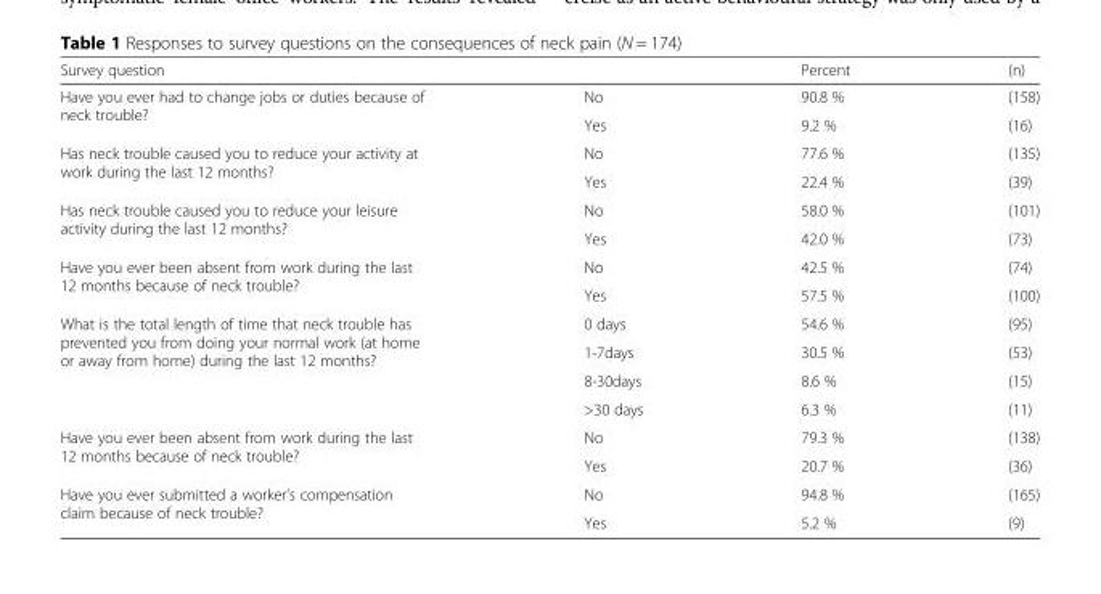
<table><thead><tr><td>Survey question</td><td></td><td>Percent</td><td>(n)</td></tr></thead><tbody><tr><td rowspan="2">Have you ever had to change jobs or duties because of neck trouble?</td><td>No</td><td>90.8 %</td><td>(158)</td></tr><tr><td>Yes</td><td>9.2 %</td><td>(16)</td></tr><tr><td rowspan="2">Has neck trouble caused you to reduce your activity at work during the last 12 months?</td><td>No</td><td>77.6 %</td><td>(135)</td></tr><tr><td>Yes</td><td>22.4 %</td><td>(39)</td></tr><tr><td rowspan="2">Has neck trouble caused you to reduce your leisure activity during the last 12 months?</td><td>No</td><td>58.0 %</td><td>(101)</td></tr><tr><td>Yes</td><td>42.0 %</td><td>(73)</td></tr><tr><td rowspan="2">Have you ever been absent from work during the last 12 months because of neck trouble?</td><td>No</td><td>42.5 %</td><td>(74)</td></tr><tr><td>Yes</td><td>57.5 %</td><td>(100)</td></tr><tr><td rowspan="4">What is the total length of time that neck trouble has prevented you from doing your normal work (at home or away from home) during the last 12 months?</td><td>0 days</td><td>54.6 %</td><td>(95)</td></tr><tr><td>1-7days</td><td>30.5 %</td><td>(53)</td></tr><tr><td>8-30days</td><td>8.6 %</td><td>(15)</td></tr><tr><td>&gt;30 days</td><td>6.3 %</td><td>(11)</td></tr><tr><td rowspan="2">Have you ever been absent from work during the last 12 months because of neck trouble?</td><td>No</td><td>79.3 %</td><td>(138)</td></tr><tr><td>Yes</td><td>20.7 %</td><td>(36)</td></tr><tr><td rowspan="2">Have you ever submitted a worker’s compensation claim because of neck trouble?</td><td>No</td><td>94.8 %</td><td>(165)</td></tr><tr><td>Yes</td><td>5.2 %</td><td>(9)</td></tr></tbody></table>